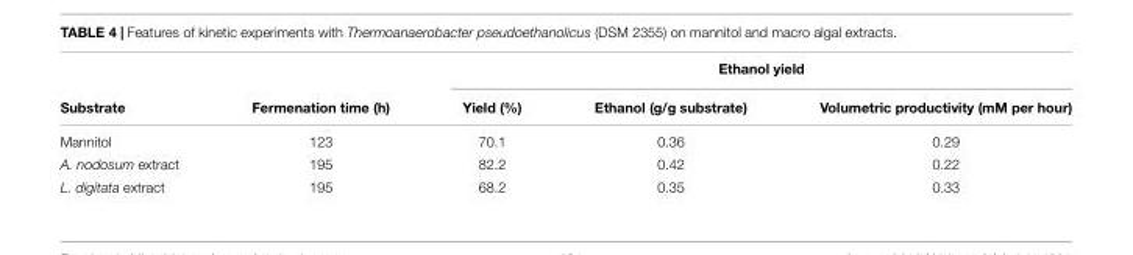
<table><thead><tr><td rowspan="2">Substrate</td><td rowspan="2">Fermenation time (h)</td><td colspan="3">Ethanol yield</td></tr><tr><td>Yield (%)</td><td>Ethanol (g/g substrate)</td><td>Volumetric productivity (mM per hour)</td></tr></thead><tbody><tr><td>Mannitol</td><td>123</td><td>70.1</td><td>0.36</td><td>0.29</td></tr><tr><td>A. nodosum extract</td><td>195</td><td>82.2</td><td>0.42</td><td>0.22</td></tr><tr><td>L. digitata extract</td><td>195</td><td>68.2</td><td>0.35</td><td>0.33</td></tr></tbody></table>